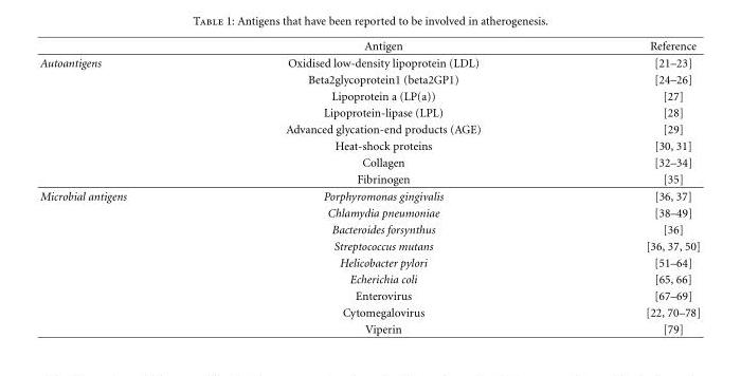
<table><thead><tr><td></td><td>Antigen</td><td>Reference</td></tr></thead><tbody><tr><td rowspan="8">Autoantigens</td><td>Oxidised low-density lipoprotein (LDL)</td><td>[21–23]</td></tr><tr><td>Beta2glycoprotein1 (beta2GP1)</td><td>[24–26]</td></tr><tr><td>Lipoprotein a (LP(a))</td><td>[27]</td></tr><tr><td>Lipoprotein-lipase (LPL)</td><td>[28]</td></tr><tr><td>Advanced glycation-end products (AGE)</td><td>[29]</td></tr><tr><td>Heat-shock proteins</td><td>[30, 31]</td></tr><tr><td>Collagen</td><td>[32–34]</td></tr><tr><td>Fibrinogen</td><td>[35]</td></tr><tr><td rowspan="9">Microbial antigens</td><td>Porphyromonas gingivalis</td><td>[36, 37]</td></tr><tr><td>Chlamydia pneumoniae</td><td>[38–49]</td></tr><tr><td>Bacteroides forsynthus</td><td>[36]</td></tr><tr><td>Streptococcus mutans</td><td>[36, 37, 50]</td></tr><tr><td>Helicobacter pylori</td><td>[51–64]</td></tr><tr><td>Echerichia coli</td><td>[65, 66]</td></tr><tr><td>Enterovirus</td><td>[67–69]</td></tr><tr><td>Cytomegalovirus</td><td>[22, 70–78]</td></tr><tr><td>Viperin</td><td>[79]</td></tr></tbody></table>